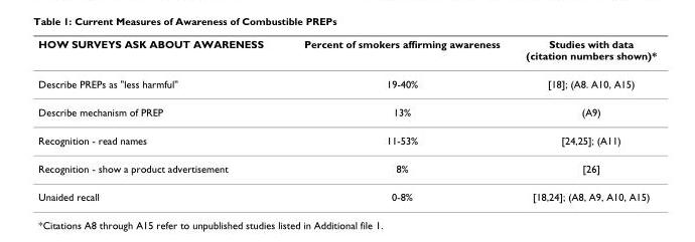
<table><thead><tr><td>HOW SURVEYS ASK ABOUT AWARENESS</td><td>Percent of smokers affirming awareness</td><td>Studies with data (citation numbers shown)*</td></tr></thead><tbody><tr><td>Describe PREPs as &quot;less harmful&quot;</td><td>19-40%</td><td>[18]; (A8. A10, A15)</td></tr><tr><td>Describe mechanism of PREP</td><td>13%</td><td>(A9)</td></tr><tr><td>Recognition - read names</td><td>11-53%</td><td>[24,25]; (A11)</td></tr><tr><td>Recognition - show a product advertisement</td><td>8%</td><td>[26]</td></tr><tr><td>Unaided recall</td><td>0-8%</td><td>[18,24]; (A8, A9, A10, A15)</td></tr></tbody></table>